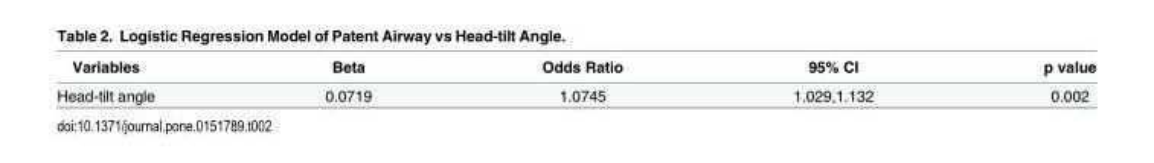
<table><thead><tr><td>Variables</td><td>Beta</td><td>Odds Ratio</td><td>95% CI</td><td>p value</td></tr></thead><tbody><tr><td>Head-tilt angle</td><td>0.0719</td><td>1.0745</td><td>1.029,1.132</td><td>0.002</td></tr></tbody></table>